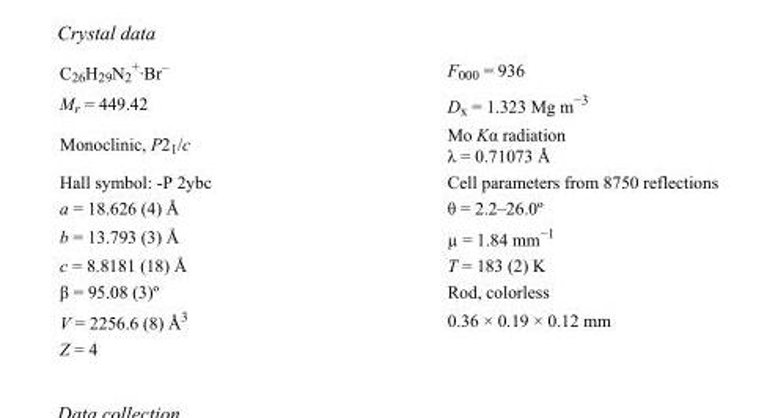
<table><tbody><tr><td>C<sub>26</sub>H<sub>29</sub>N<sub>2</sub> <sup>+</sup>·Br<sup>–</sup></td><td>F000 = 936</td></tr><tr><td>M<sub>r</sub> = 449.42</td><td>D<sub>x</sub> = 1.323 Mg m<sup>−3</sup></td></tr><tr><td>Monoclinic, P2<sub>1</sub>/c</td><td>Mo Kα radiation λ = 0.71073 Å</td></tr><tr><td>Hall symbol: -P 2ybc</td><td>Cell parameters from 8750 reflections</td></tr><tr><td>a = 18.626 (4) Å</td><td>θ = 2.2–26.0º</td></tr><tr><td>b = 13.793 (3) Å</td><td>µ = 1.84 mm<sup>−1</sup></td></tr><tr><td>c = 8.8181 (18) Å</td><td>T = 183 (2) K</td></tr><tr><td>β = 95.08 (3)º</td><td>Rod, colorless</td></tr><tr><td>V = 2256.6 (8) Å<sup>3</sup></td><td>0.36 × 0.19 × 0.12 mm</td></tr><tr><td>Z = 4</td><td></td></tr></tbody></table>